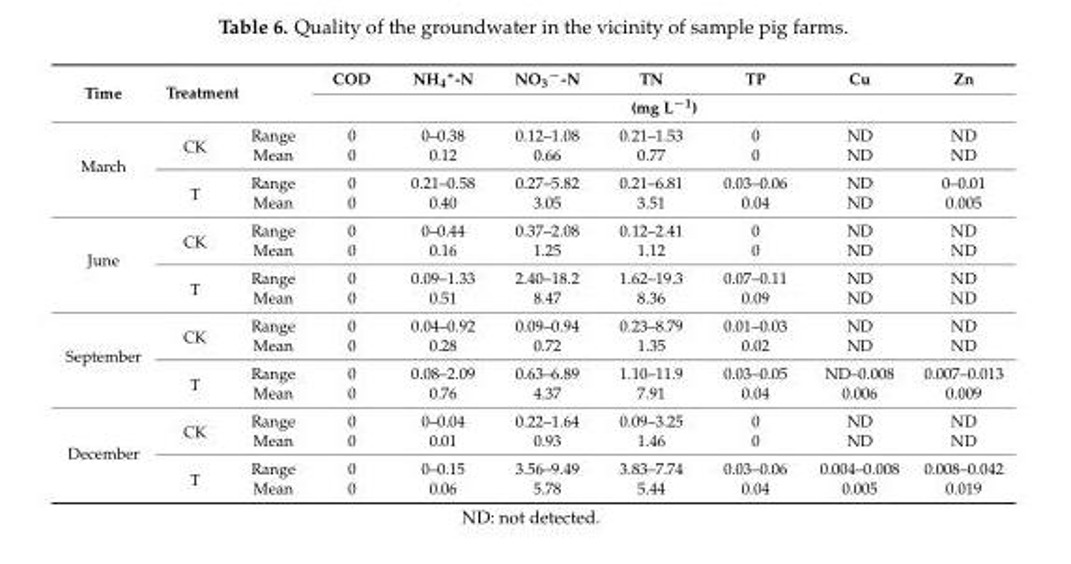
<table><thead><tr><td rowspan="2">Time</td><td rowspan="2">Treatment</td><td rowspan="2"></td><td>COD</td><td>NH<sub>4</sub><sup>+</sup>-N</td><td>NO<sub>3</sub><sup>−</sup>-N</td><td>TN</td><td>TP</td><td>Cu</td><td>Zn</td></tr><tr><td colspan="7">(mg L<sup>−1</sup>)</td></tr></thead><tbody><tr><td rowspan="4">March</td><td rowspan="2">CK</td><td>Range</td><td>0</td><td>0–0.38</td><td>0.12–1.08</td><td>0.21–1.53</td><td>0</td><td>ND</td><td>ND</td></tr><tr><td>Mean</td><td>0</td><td>0.12</td><td>0.66</td><td>0.77</td><td>0</td><td>ND</td><td>ND</td></tr><tr><td rowspan="2">T</td><td>Range</td><td>0</td><td>0.21–0.58</td><td>0.27–5.82</td><td>0.21–6.81</td><td>0.03–0.06</td><td>ND</td><td>0–0.01</td></tr><tr><td>Mean</td><td>0</td><td>0.40</td><td>3.05</td><td>3.51</td><td>0.04</td><td>ND</td><td>0.005</td></tr><tr><td rowspan="4">June</td><td rowspan="2">CK</td><td>Range</td><td>0</td><td>0–0.44</td><td>0.37–2.08</td><td>0.12–2.41</td><td>0</td><td>ND</td><td>ND</td></tr><tr><td>Mean</td><td>0</td><td>0.16</td><td>1.25</td><td>1.12</td><td>0</td><td>ND</td><td>ND</td></tr><tr><td rowspan="2">T</td><td>Range</td><td>0</td><td>0.09–1.33</td><td>2.40–18.2</td><td>1.62–19.3</td><td>0.07–0.11</td><td>ND</td><td>ND</td></tr><tr><td>Mean</td><td>0</td><td>0.51</td><td>8.47</td><td>8.36</td><td>0.09</td><td>ND</td><td>ND</td></tr><tr><td rowspan="4">September</td><td rowspan="2">CK</td><td>Range</td><td>0</td><td>0.04–0.92</td><td>0.09–0.94</td><td>0.23–8.79</td><td>0.01–0.03</td><td>ND</td><td>ND</td></tr><tr><td>Mean</td><td>0</td><td>0.28</td><td>0.72</td><td>1.35</td><td>0.02</td><td>ND</td><td>ND</td></tr><tr><td rowspan="2">T</td><td>Range</td><td>0</td><td>0.08–2.09</td><td>0.63–6.89</td><td>1.10–11.9</td><td>0.03–0.05</td><td>ND–0.008</td><td>0.007–0.013</td></tr><tr><td>Mean</td><td>0</td><td>0.76</td><td>4.37</td><td>7.91</td><td>0.04</td><td>0.006</td><td>0.009</td></tr><tr><td rowspan="4">December</td><td rowspan="2">CK</td><td>Range</td><td>0</td><td>0–0.04</td><td>0.22–1.64</td><td>0.09–3.25</td><td>0</td><td>ND</td><td>ND</td></tr><tr><td>Mean</td><td>0</td><td>0.01</td><td>0.93</td><td>1.46</td><td>0</td><td>ND</td><td>ND</td></tr><tr><td rowspan="2">T</td><td>Range</td><td>0</td><td>0–0.15</td><td>3.56–9.49</td><td>3.83–7.74</td><td>0.03–0.06</td><td>0.004–0.008</td><td>0.008–0.042</td></tr><tr><td>Mean</td><td>0</td><td>0.06</td><td>5.78</td><td>5.44</td><td>0.04</td><td>0.005</td><td>0.019</td></tr></tbody></table>